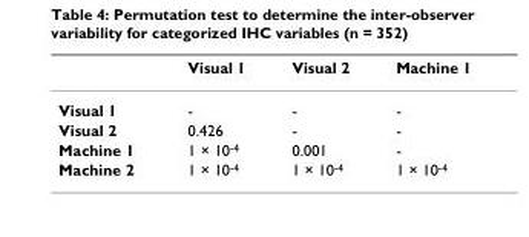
<table><thead><tr><td></td><td>Visual 1</td><td>Visual 2</td><td>Machine 1</td></tr></thead><tbody><tr><td>Visual 1</td><td>-</td><td>-</td><td>-</td></tr><tr><td>Visual 2</td><td>0.426</td><td>-</td><td>-</td></tr><tr><td>Machine 1</td><td>1 × 10<sup>-4</sup></td><td>0.001</td><td>-</td></tr><tr><td>Machine 2</td><td>1 × 10<sup>-4</sup></td><td>1 × 10<sup>-4</sup></td><td>1 × 10<sup>-4</sup></td></tr></tbody></table>